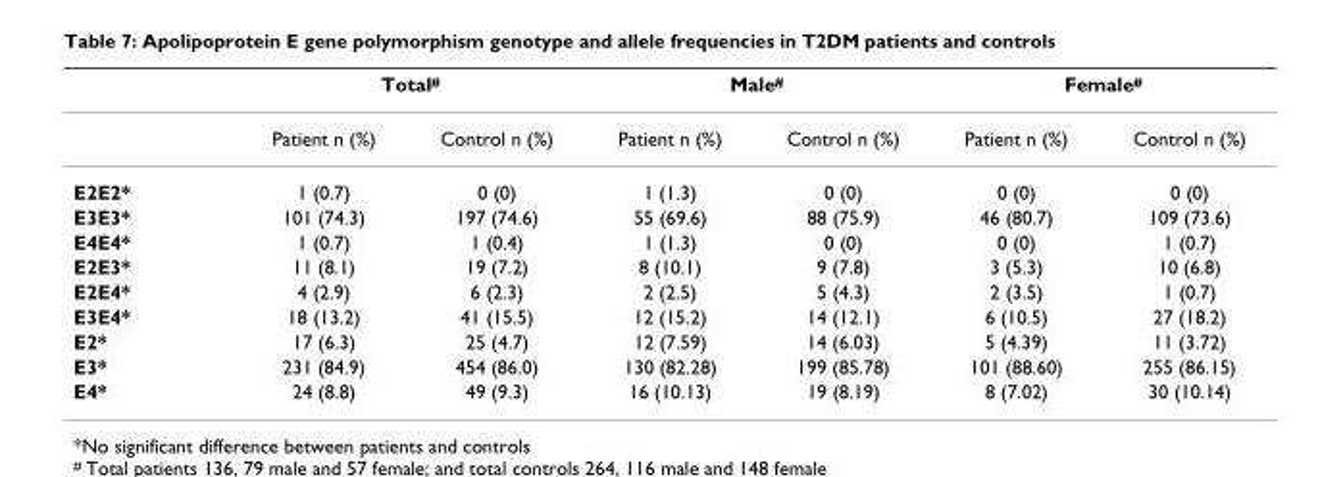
<table><thead><tr><td rowspan="2"></td><td colspan="2">Total<sup>#</sup></td><td colspan="2">Male<sup>#</sup></td><td colspan="2">Female<sup>#</sup></td></tr><tr><td>Patient n (%)</td><td>Control n (%)</td><td>Patient n (%)</td><td>Control n (%)</td><td>Patient n (%)</td><td>Control n (%)</td></tr></thead><tbody><tr><td>E2E2*</td><td>1 (0.7)</td><td>0 (0)</td><td>1 (1.3)</td><td>0 (0)</td><td>0 (0)</td><td>0 (0)</td></tr><tr><td>E3E3*</td><td>101 (74.3)</td><td>197 (74.6)</td><td>55 (69.6)</td><td>88 (75.9)</td><td>46 (80.7)</td><td>109 (73.6)</td></tr><tr><td>E4E4*</td><td>1 (0.7)</td><td>1 (0.4)</td><td>1 (1.3)</td><td>0 (0)</td><td>0 (0)</td><td>1 (0.7)</td></tr><tr><td>E2E3*</td><td>11 (8.1)</td><td>19 (7.2)</td><td>8 (10.1)</td><td>9 (7.8)</td><td>3 (5.3)</td><td>10 (6.8)</td></tr><tr><td>E2E4*</td><td>4 (2.9)</td><td>6 (2.3)</td><td>2 (2.5)</td><td>5 (4.3)</td><td>2 (3.5)</td><td>1 (0.7)</td></tr><tr><td>E3E4*</td><td>18 (13.2)</td><td>41 (15.5)</td><td>12 (15.2)</td><td>14 (12.1)</td><td>6 (10.5)</td><td>27 (18.2)</td></tr><tr><td>E2*</td><td>17 (6.3)</td><td>25 (4.7)</td><td>12 (7.59)</td><td>14 (6.03)</td><td>5 (4.39)</td><td>11 (3.72)</td></tr><tr><td>E3*</td><td>231 (84.9)</td><td>454 (86.0)</td><td>130 (82.28)</td><td>199 (85.78)</td><td>101 (88.60)</td><td>255 (86.15)</td></tr><tr><td>E4*</td><td>24 (8.8)</td><td>49 (9.3)</td><td>16 (10.13)</td><td>19 (8.19)</td><td>8 (7.02)</td><td>30 (10.14)</td></tr></tbody></table>